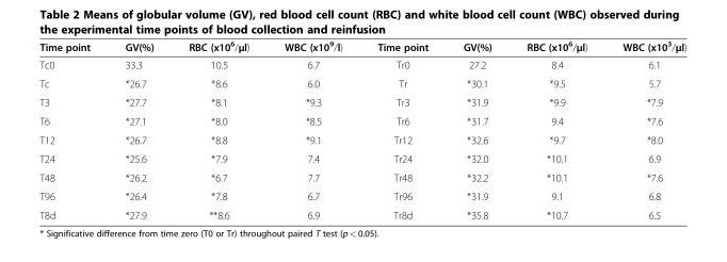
<table><thead><tr><td>Time point</td><td>GV(%)</td><td>RBC (x10<sup>6</sup>/μl)</td><td>WBC (x10<sup>9</sup>/l)</td><td>Time point</td><td>GV(%)</td><td>RBC (x10<sup>6</sup>/μl)</td><td>WBC (x10<sup>3</sup>/μl)</td></tr></thead><tbody><tr><td>Tc0</td><td>33.3</td><td>10.5</td><td>6.7</td><td>Tr0</td><td>27.2</td><td>8.4</td><td>6.1</td></tr><tr><td>Tc</td><td>*26.7</td><td>*8.6</td><td>6.0</td><td>Tr</td><td>*30.1</td><td>*9.5</td><td>5.7</td></tr><tr><td>T3</td><td>*27.7</td><td>*8.1</td><td>*9.3</td><td>Tr3</td><td>*31.9</td><td>*9.9</td><td>*7.9</td></tr><tr><td>T6</td><td>*27.1</td><td>*8.0</td><td>*8.5</td><td>Tr6</td><td>*31.7</td><td>9.4</td><td>*7.6</td></tr><tr><td>T12</td><td>*26.7</td><td>*8.8</td><td>*9.1</td><td>Tr12</td><td>*32.6</td><td>*9.7</td><td>*8.0</td></tr><tr><td>T24</td><td>*25.6</td><td>*7.9</td><td>7.4</td><td>Tr24</td><td>*32.0</td><td>*10.1</td><td>6.9</td></tr><tr><td>T48</td><td>*26.2</td><td>*6.7</td><td>7.7</td><td>Tr48</td><td>*32.2</td><td>*10.1</td><td>*7.6</td></tr><tr><td>T96</td><td>*26.4</td><td>*7.8</td><td>6.7</td><td>Tr96</td><td>*31.9</td><td>9.1</td><td>6.8</td></tr><tr><td>T8d</td><td>*27.9</td><td>**8.6</td><td>6.9</td><td>Tr8d</td><td>*35.8</td><td>*10.7</td><td>6.5</td></tr></tbody></table>